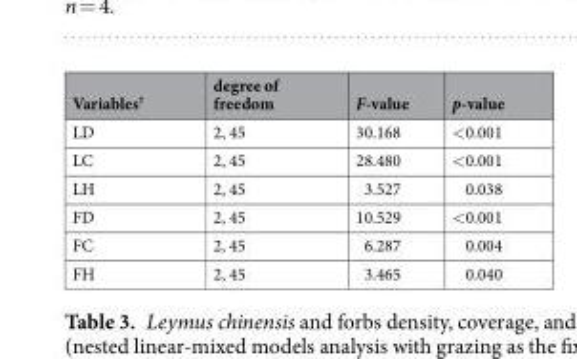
<table><thead><tr><td>Variables<sup>†</sup></td><td>degree of freedom</td><td>F-value</td><td>p-value</td></tr></thead><tbody><tr><td>LD</td><td>2, 45</td><td>30.168</td><td>&lt;0.001</td></tr><tr><td>LC</td><td>2, 45</td><td>28.480</td><td>&lt;0.001</td></tr><tr><td>LH</td><td>2, 45</td><td>3.527</td><td>0.038</td></tr><tr><td>FD</td><td>2, 45</td><td>10.529</td><td>&lt;0.001</td></tr><tr><td>FC</td><td>2, 45</td><td>6.287</td><td>0.004</td></tr><tr><td>FH</td><td>2, 45</td><td>3.465</td><td>0.040</td></tr></tbody></table>